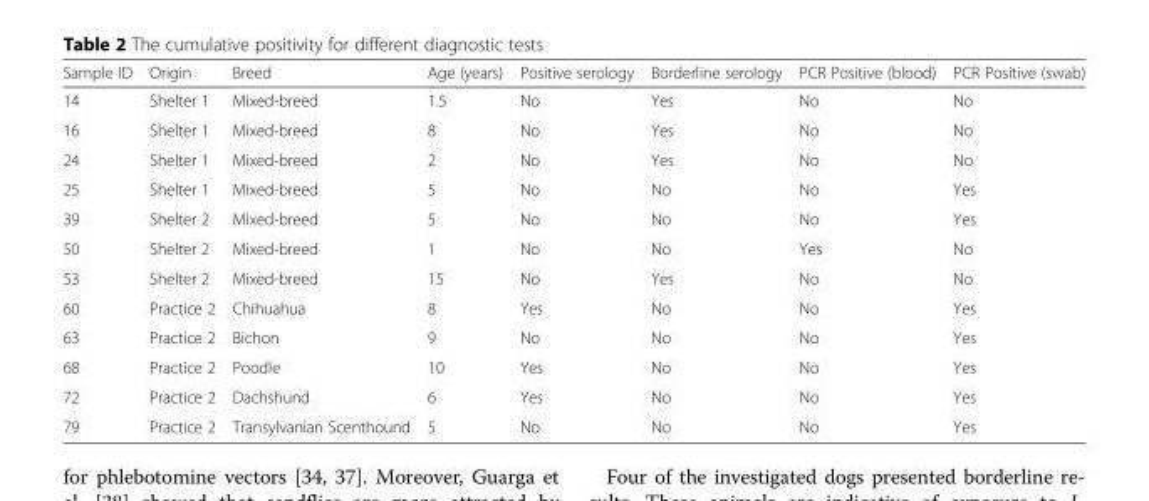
<table><thead><tr><td>Sample ID</td><td>Origin</td><td>Breed</td><td>Age (years)</td><td>Positive serology</td><td>Borderline serology</td><td>PCR Positive (blood)</td><td>PCR Positive (swab)</td></tr></thead><tbody><tr><td>14</td><td>Shelter 1</td><td>Mixed-breed</td><td>1.5</td><td>No</td><td>Yes</td><td>No</td><td>No</td></tr><tr><td>16</td><td>Shelter 1</td><td>Mixed-breed</td><td>8</td><td>No</td><td>Yes</td><td>No</td><td>No</td></tr><tr><td>24</td><td>Shelter 1</td><td>Mixed-breed</td><td>2</td><td>No</td><td>Yes</td><td>No</td><td>No</td></tr><tr><td>25</td><td>Shelter 1</td><td>Mixed-breed</td><td>5</td><td>No</td><td>No</td><td>No</td><td>Yes</td></tr><tr><td>39</td><td>Shelter 2</td><td>Mixed-breed</td><td>5</td><td>No</td><td>No</td><td>No</td><td>Yes</td></tr><tr><td>50</td><td>Shelter 2</td><td>Mixed-breed</td><td>1</td><td>No</td><td>No</td><td>Yes</td><td>No</td></tr><tr><td>53</td><td>Shelter 2</td><td>Mixed-breed</td><td>15</td><td>No</td><td>Yes</td><td>No</td><td>No</td></tr><tr><td>60</td><td>Practice 2</td><td>Chihuahua</td><td>8</td><td>Yes</td><td>No</td><td>No</td><td>Yes</td></tr><tr><td>63</td><td>Practice 2</td><td>Bichon</td><td>9</td><td>No</td><td>No</td><td>No</td><td>Yes</td></tr><tr><td>68</td><td>Practice 2</td><td>Poodle</td><td>10</td><td>Yes</td><td>No</td><td>No</td><td>Yes</td></tr><tr><td>72</td><td>Practice 2</td><td>Dachshund</td><td>6</td><td>Yes</td><td>No</td><td>No</td><td>Yes</td></tr><tr><td>79</td><td>Practice 2</td><td>Transylvanian Scenthound</td><td>5</td><td>No</td><td>No</td><td>No</td><td>Yes</td></tr></tbody></table>